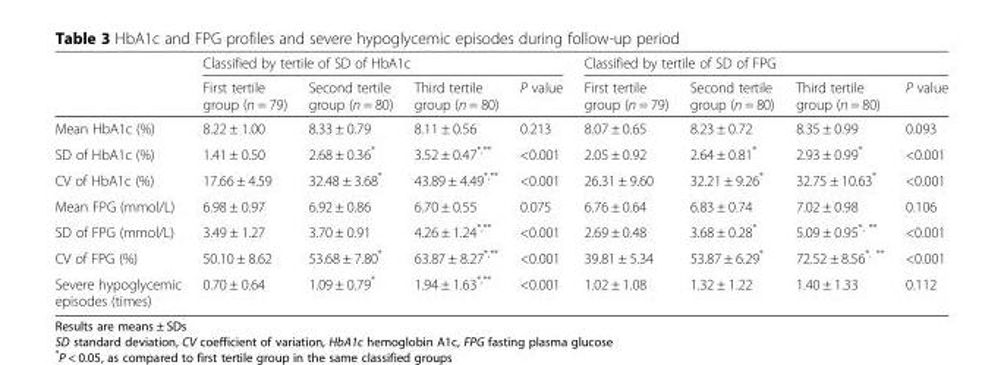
<table><thead><tr><td rowspan="2"></td><td colspan="4">Classified by tertile of SD of HbA1c</td><td colspan="4">Classified by tertile of SD of FPG</td></tr><tr><td>First tertile group (n = 79)</td><td>Second tertile group (n = 80)</td><td>Third tertile group (n = 80)</td><td>P value</td><td>First tertile group (n = 79)</td><td>Second tertile group (n = 80)</td><td>Third tertile group (n = 80)</td><td>P value</td></tr></thead><tbody><tr><td>Mean HbA1c (%)</td><td>8.22 ± 1.00</td><td>8.33 ± 0.79</td><td>8.11 ± 0.56</td><td>0.213</td><td>8.07 ± 0.65</td><td>8.23 ± 0.72</td><td>8.35 ± 0.99</td><td>0.093</td></tr><tr><td>SD of HbA1c (%)</td><td>1.41 ± 0.50</td><td>2.68 ± 0.36*</td><td>3.52 ± 0.47<sup>*,**</sup></td><td>&lt;0.001</td><td>2.05 ± 0.92</td><td>2.64 ± 0.81*</td><td>2.93 ± 0.99*</td><td>&lt;0.001</td></tr><tr><td>CV of HbA1c (%)</td><td>17.66 ± 4.59</td><td>32.48 ± 3.68*</td><td>43.89 ± 4.49<sup>*,**</sup></td><td>&lt;0.001</td><td>26.31 ± 9.60</td><td>32.21 ± 9.26*</td><td>32.75 ± 10.63*</td><td>&lt;0.001</td></tr><tr><td>Mean FPG (mmol/L)</td><td>6.98 ± 0.97</td><td>6.92 ± 0.86</td><td>6.70 ± 0.55</td><td>0.075</td><td>6.76 ± 0.64</td><td>6.83 ± 0.74</td><td>7.02 ± 0.98</td><td>0.106</td></tr><tr><td>SD of FPG (mmol/L)</td><td>3.49 ± 1.27</td><td>3.70 ± 0.91</td><td>4.26 ± 1.24<sup>*,**</sup></td><td>&lt;0.001</td><td>2.69 ± 0.48</td><td>3.68 ± 0.28*</td><td>5.09 ± 0.95<sup>*, **</sup></td><td>&lt;0.001</td></tr><tr><td>CV of FPG (%)</td><td>50.10 ± 8.62</td><td>53.68 ± 7.80*</td><td>63.87 ± 8.27<sup>*,**</sup></td><td>&lt;0.001</td><td>39.81 ± 5.34</td><td>53.87 ± 6.29*</td><td>72.52 ± 8.56<sup>*, **</sup></td><td>&lt;0.001</td></tr><tr><td>Severe hypoglycemic episodes (times)</td><td>0.70 ± 0.64</td><td>1.09 ± 0.79*</td><td>1.94 ± 1.63<sup>*,**</sup></td><td>&lt;0.001</td><td>1.02 ± 1.08</td><td>1.32 ± 1.22</td><td>1.40 ± 1.33</td><td>0.112</td></tr></tbody></table>